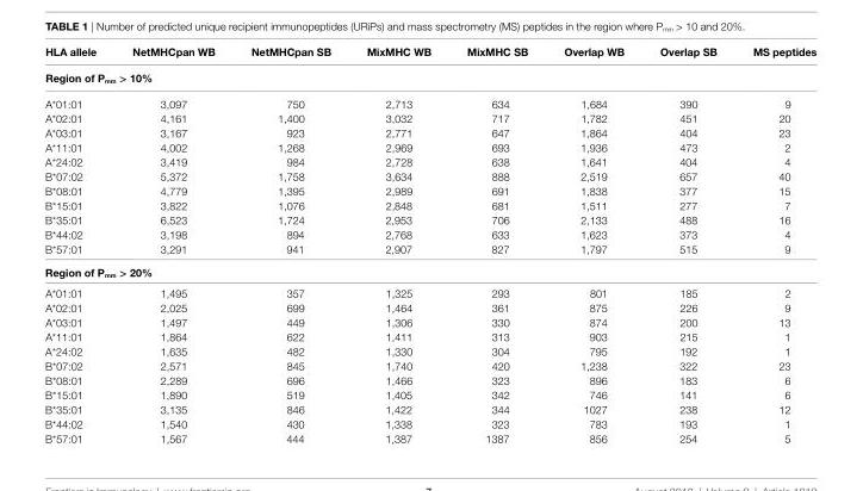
<table><thead><tr><td>hla allele</td><td>netMhcpan WB</td><td>netMhcpan sB</td><td>MixMhc WB</td><td>MixMhc sB</td><td>Overlap WB</td><td>Overlap sB</td><td>Ms peptides</td></tr><tr><td colspan="8">region of P<sub>mm</sub> &gt; 10%</td></tr></thead><tbody><tr><td>A*01:01</td><td>3,097</td><td>750</td><td>2,713</td><td>634</td><td>1,684</td><td>390</td><td>9</td></tr><tr><td>A*02:01</td><td>4,161</td><td>1,400</td><td>3,032</td><td>717</td><td>1,782</td><td>451</td><td>20</td></tr><tr><td>A*03:01</td><td>3,167</td><td>923</td><td>2,771</td><td>647</td><td>1,864</td><td>404</td><td>23</td></tr><tr><td>A*11:01</td><td>4,002</td><td>1,268</td><td>2,969</td><td>693</td><td>1,936</td><td>473</td><td>2</td></tr><tr><td>A*24:02</td><td>3,419</td><td>984</td><td>2,728</td><td>638</td><td>1,641</td><td>404</td><td>4</td></tr><tr><td>B*07:02</td><td>5,372</td><td>1,758</td><td>3,634</td><td>888</td><td>2,519</td><td>657</td><td>40</td></tr><tr><td>B*08:01</td><td>4,779</td><td>1,395</td><td>2,989</td><td>691</td><td>1,838</td><td>377</td><td>15</td></tr><tr><td>B*15:01</td><td>3,822</td><td>1,076</td><td>2,848</td><td>681</td><td>1,511</td><td>277</td><td>7</td></tr><tr><td>B*35:01</td><td>6,523</td><td>1,724</td><td>2,953</td><td>706</td><td>2,133</td><td>488</td><td>16</td></tr><tr><td>B*44:02</td><td>3,198</td><td>894</td><td>2,768</td><td>633</td><td>1,623</td><td>373</td><td>4</td></tr><tr><td>B*57:01</td><td>3,291</td><td>941</td><td>2,907</td><td>827</td><td>1,797</td><td>515</td><td>9</td></tr><tr><td colspan="8">region of P<sub>mm</sub> &gt; 20%</td></tr><tr><td>A*01:01</td><td>1,495</td><td>357</td><td>1,325</td><td>293</td><td>801</td><td>185</td><td>2</td></tr><tr><td>A*02:01</td><td>2,025</td><td>699</td><td>1,464</td><td>361</td><td>875</td><td>226</td><td>9</td></tr><tr><td>A*03:01</td><td>1,497</td><td>449</td><td>1,306</td><td>330</td><td>874</td><td>200</td><td>13</td></tr><tr><td>A*11:01</td><td>1,864</td><td>622</td><td>1,411</td><td>313</td><td>903</td><td>215</td><td>1</td></tr><tr><td>A*24:02</td><td>1,635</td><td>482</td><td>1,330</td><td>304</td><td>795</td><td>192</td><td>1</td></tr><tr><td>B*07:02</td><td>2,571</td><td>845</td><td>1,740</td><td>420</td><td>1,238</td><td>322</td><td>23</td></tr><tr><td>B*08:01</td><td>2,289</td><td>696</td><td>1,466</td><td>323</td><td>896</td><td>183</td><td>6</td></tr><tr><td>B*15:01</td><td>1,890</td><td>519</td><td>1,405</td><td>342</td><td>746</td><td>141</td><td>6</td></tr><tr><td>B*35:01</td><td>3,135</td><td>846</td><td>1,422</td><td>344</td><td>1027</td><td>238</td><td>12</td></tr><tr><td>B*44:02</td><td>1,540</td><td>430</td><td>1,338</td><td>323</td><td>783</td><td>193</td><td>1</td></tr><tr><td>B*57:01</td><td>1,567</td><td>444</td><td>1,387</td><td>1387</td><td>856</td><td>254</td><td>5</td></tr></tbody></table>